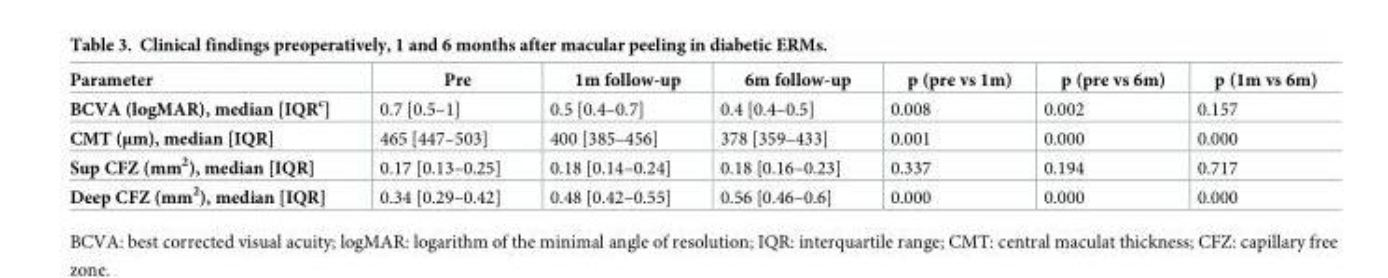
<table><thead><tr><td>Parameter</td><td>Pre</td><td>1m follow-up</td><td>6m follow-up</td><td>p (pre vs 1m)</td><td>p (pre vs 6m)</td><td>p (1m vs 6m)</td></tr></thead><tbody><tr><td>BCVA (logMAR), median [IQR<sup>c</sup>]</td><td>0.7 [0.5–1]</td><td>0.5 [0.4–0.7]</td><td>0.4 [0.4–0.5]</td><td>0.008</td><td>0.002</td><td>0.157</td></tr><tr><td>CMT (μm), median [IQR]</td><td>465 [447–503]</td><td>400 [385–456]</td><td>378 [359–433]</td><td>0.001</td><td>0.000</td><td>0.000</td></tr><tr><td>Sup CFZ (mm<sup>2</sup>), median [IQR]</td><td>0.17 [0.13–0.25]</td><td>0.18 [0.14–0.24]</td><td>0.18 [0.16–0.23]</td><td>0.337</td><td>0.194</td><td>0.717</td></tr><tr><td>Deep CFZ (mm<sup>2</sup>), median [IQR]</td><td>0.34 [0.29–0.42]</td><td>0.48 [0.42–0.55]</td><td>0.56 [0.46–0.6]</td><td>0.000</td><td>0.000</td><td>0.000</td></tr></tbody></table>